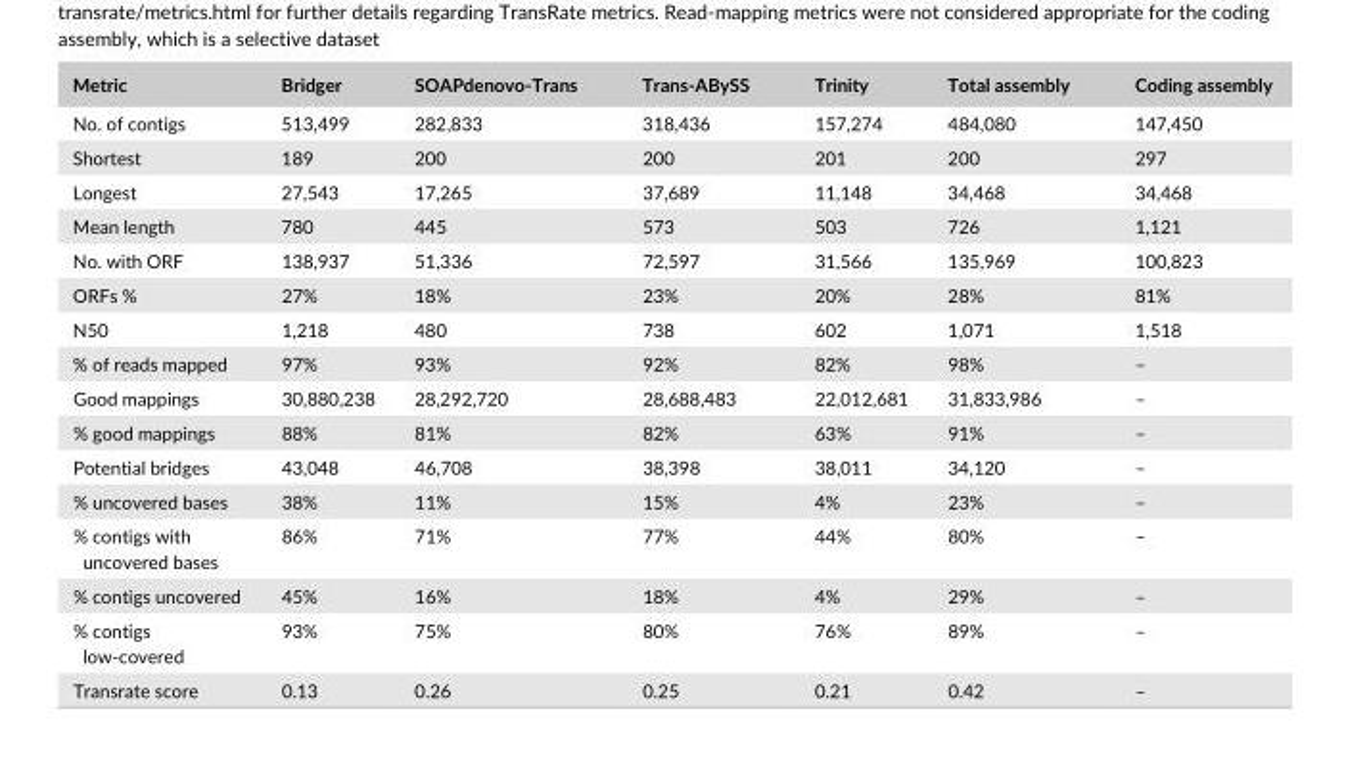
<table><thead><tr><td>Metric</td><td>Bridger</td><td>SOAPdenovo- Trans</td><td>Trans- ABySS</td><td>Trinity</td><td>Total assembly</td><td>Coding assembly</td></tr></thead><tbody><tr><td>No. of contigs</td><td>513,499</td><td>282,833</td><td>318,436</td><td>157,274</td><td>484,080</td><td>147,450</td></tr><tr><td>Shortest</td><td>189</td><td>200</td><td>200</td><td>201</td><td>200</td><td>297</td></tr><tr><td>Longest</td><td>27,543</td><td>17,265</td><td>37,689</td><td>11,148</td><td>34,468</td><td>34,468</td></tr><tr><td>Mean length</td><td>780</td><td>445</td><td>573</td><td>503</td><td>726</td><td>1,121</td></tr><tr><td>No. with ORF</td><td>138,937</td><td>51,336</td><td>72,597</td><td>31,566</td><td>135,969</td><td>100,823</td></tr><tr><td>ORFs %</td><td>27%</td><td>18%</td><td>23%</td><td>20%</td><td>28%</td><td>81%</td></tr><tr><td>N50</td><td>1,218</td><td>480</td><td>738</td><td>602</td><td>1,071</td><td>1,518</td></tr><tr><td>% of reads mapped</td><td>97%</td><td>93%</td><td>92%</td><td>82%</td><td>98%</td><td>–</td></tr><tr><td>Good mappings</td><td>30,880,238</td><td>28,292,720</td><td>28,688,483</td><td>22,012,681</td><td>31,833,986</td><td>–</td></tr><tr><td>% good mappings</td><td>88%</td><td>81%</td><td>82%</td><td>63%</td><td>91%</td><td>–</td></tr><tr><td>Potential bridges</td><td>43,048</td><td>46,708</td><td>38,398</td><td>38,011</td><td>34,120</td><td>–</td></tr><tr><td>% uncovered bases</td><td>38%</td><td>11%</td><td>15%</td><td>4%</td><td>23%</td><td>–</td></tr><tr><td>% contigs with uncovered bases</td><td>86%</td><td>71%</td><td>77%</td><td>44%</td><td>80%</td><td>–</td></tr><tr><td>% contigs uncovered</td><td>45%</td><td>16%</td><td>18%</td><td>4%</td><td>29%</td><td>–</td></tr><tr><td>% contigs low- covered</td><td>93%</td><td>75%</td><td>80%</td><td>76%</td><td>89%</td><td>–</td></tr><tr><td>Transrate score</td><td>0.13</td><td>0.26</td><td>0.25</td><td>0.21</td><td>0.42</td><td>–</td></tr></tbody></table>